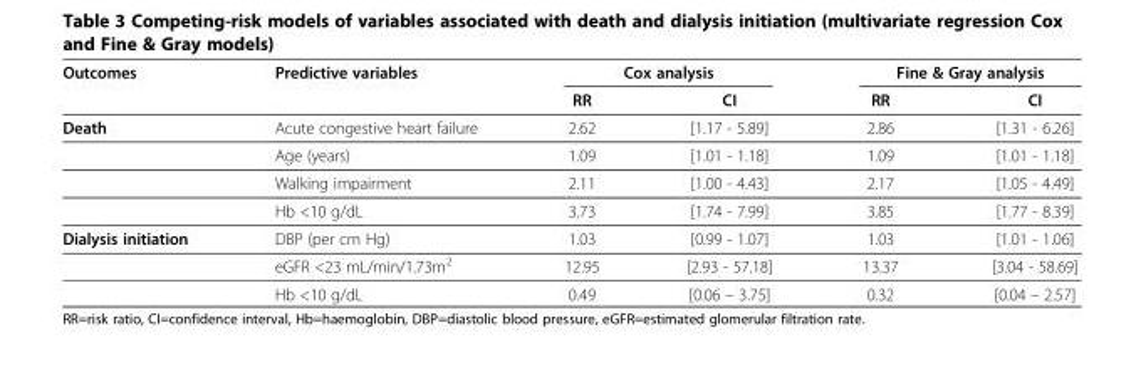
<table><thead><tr><td rowspan="2">Outcomes</td><td rowspan="2">Predictive variables</td><td colspan="2">Cox analysis</td><td colspan="2">Fine &amp; Gray analysis</td></tr><tr><td>RR</td><td>CI</td><td>RR</td><td>CI</td></tr></thead><tbody><tr><td rowspan="4">Death</td><td>Acute congestive heart failure</td><td>2.62</td><td>[1.17 - 5.89]</td><td>2.86</td><td>[1.31 - 6.26]</td></tr><tr><td>Age (years)</td><td>1.09</td><td>[1.01 - 1.18]</td><td>1.09</td><td>[1.01 - 1.18]</td></tr><tr><td>Walking impairment</td><td>2.11</td><td>[1.00 - 4.43]</td><td>2.17</td><td>[1.05 - 4.49]</td></tr><tr><td>Hb &lt;10 g/dL</td><td>3.73</td><td>[1.74 - 7.99]</td><td>3.85</td><td>[1.77 - 8.39]</td></tr><tr><td rowspan="3">Dialysis initiation</td><td>DBP (per cm Hg)</td><td>1.03</td><td>[0.99 - 1.07]</td><td>1.03</td><td>[1.01 - 1.06]</td></tr><tr><td>eGFR &lt;23 mL/min/1.73m<sup>2</sup></td><td>12.95</td><td>[2.93 - 57.18]</td><td>13.37</td><td>[3.04 - 58.69]</td></tr><tr><td>Hb &lt;10 g/dL</td><td>0.49</td><td>[0.06 – 3.75]</td><td>0.32</td><td>[0.04 – 2.57]</td></tr></tbody></table>